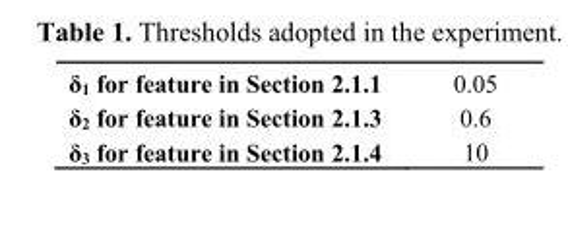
<table><tbody><tr><td>δ<sub>1</sub> for feature in Section 2.1.1</td><td>0.05</td></tr><tr><td>δ<sub>2</sub> for feature in Section 2.1.3</td><td>0.6</td></tr><tr><td>δ<sub>3</sub> for feature in Section 2.1.4</td><td>10</td></tr></tbody></table>